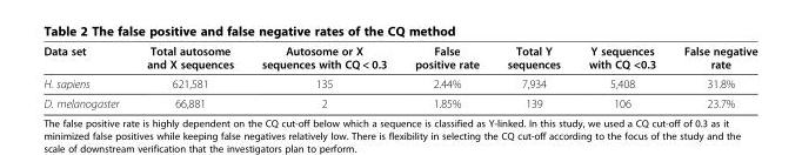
<table><thead><tr><td>Data set</td><td>Total autosome and X sequences</td><td>Autosome or X sequences with CQ &lt; 0.3</td><td>False positive rate</td><td>Total Y sequences</td><td>Y sequences with CQ &lt;0.3</td><td>False negative rate</td></tr></thead><tbody><tr><td>H. sapiens</td><td>621,581</td><td>135</td><td>2.44%</td><td>7,934</td><td>5,408</td><td>31.8%</td></tr><tr><td>D. melanogaster</td><td>66,881</td><td>2</td><td>1.85%</td><td>139</td><td>106</td><td>23.7%</td></tr></tbody></table>